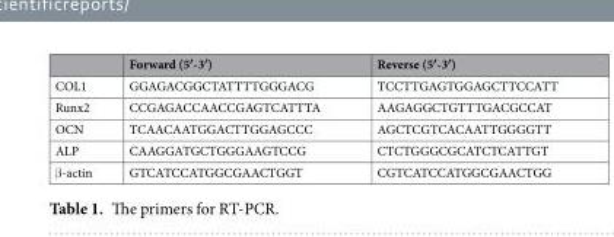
<table><thead><tr><td></td><td>Forward (5′-3′)</td><td>Reverse (5′-3′)</td></tr></thead><tbody><tr><td>COL1</td><td>GGAGACGGCTATTTTGGGACG</td><td>TCCTTGAGTGGAGCTTCCATT</td></tr><tr><td>Runx2</td><td>CCGAGACCAACCGAGTCATTTA</td><td>AAGAGGCTGTTTGACGCCAT</td></tr><tr><td>OCN</td><td>TCAACAATGGACTTGGAGCCC</td><td>AGCTCGTCACAATTGGGGTT</td></tr><tr><td>ALP</td><td>CAAGGATGCTGGGAAGTCCG</td><td>CTCTGGGCGCATCTCATTGT</td></tr><tr><td>β-actin</td><td>GTCATCCATGGCGAACTGGT</td><td>CGTCATCCATGGCGAACTGG</td></tr></tbody></table>